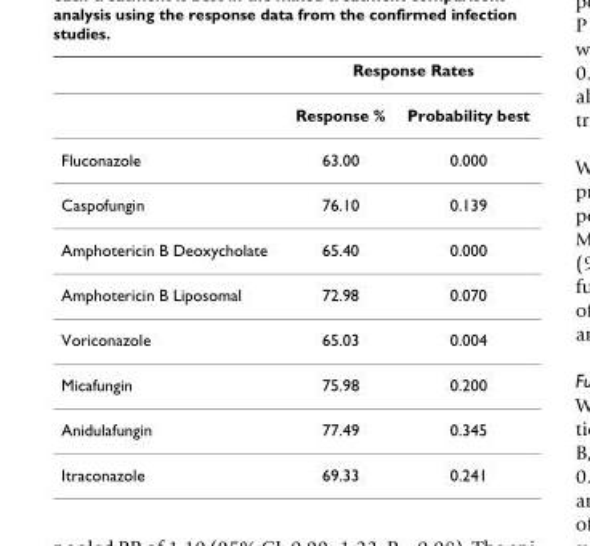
<table><thead><tr><td rowspan="2"></td><td colspan="2">Response Rates</td></tr><tr><td>Response %</td><td>Probability best</td></tr></thead><tbody><tr><td>Fluconazole</td><td>63.00</td><td>0.000</td></tr><tr><td>Caspofungin</td><td>76.10</td><td>0.139</td></tr><tr><td>Amphotericin B Deoxycholate</td><td>65.40</td><td>0.000</td></tr><tr><td>Amphotericin B Liposomal</td><td>72.98</td><td>0.070</td></tr><tr><td>Voriconazole</td><td>65.03</td><td>0.004</td></tr><tr><td>Micafungin</td><td>75.98</td><td>0.200</td></tr><tr><td>Anidulafungin</td><td>77.49</td><td>0.345</td></tr><tr><td>Itraconazole</td><td>69.33</td><td>0.241</td></tr></tbody></table>